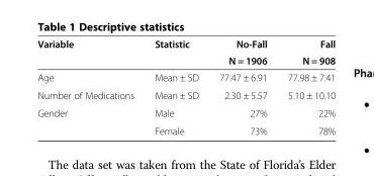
<table><thead><tr><td rowspan="2">Variable</td><td rowspan="2">Statistic</td><td rowspan="2">No-Fall N = 1906</td><td rowspan="2">Fall N = 908</td></tr><tr></tr></thead><tbody><tr><td>Age</td><td>Mean ± SD</td><td>77.47 ± 6.91</td><td>77.98 ± 7.41</td></tr><tr><td>Number of Medications</td><td>Mean ± SD</td><td>2.30 ± 5.57</td><td>5.10 ± 10.10</td></tr><tr><td rowspan="2">Gender</td><td>Male</td><td>27%</td><td>22%</td></tr><tr><td>Female</td><td>73%</td><td>78%</td></tr></tbody></table>